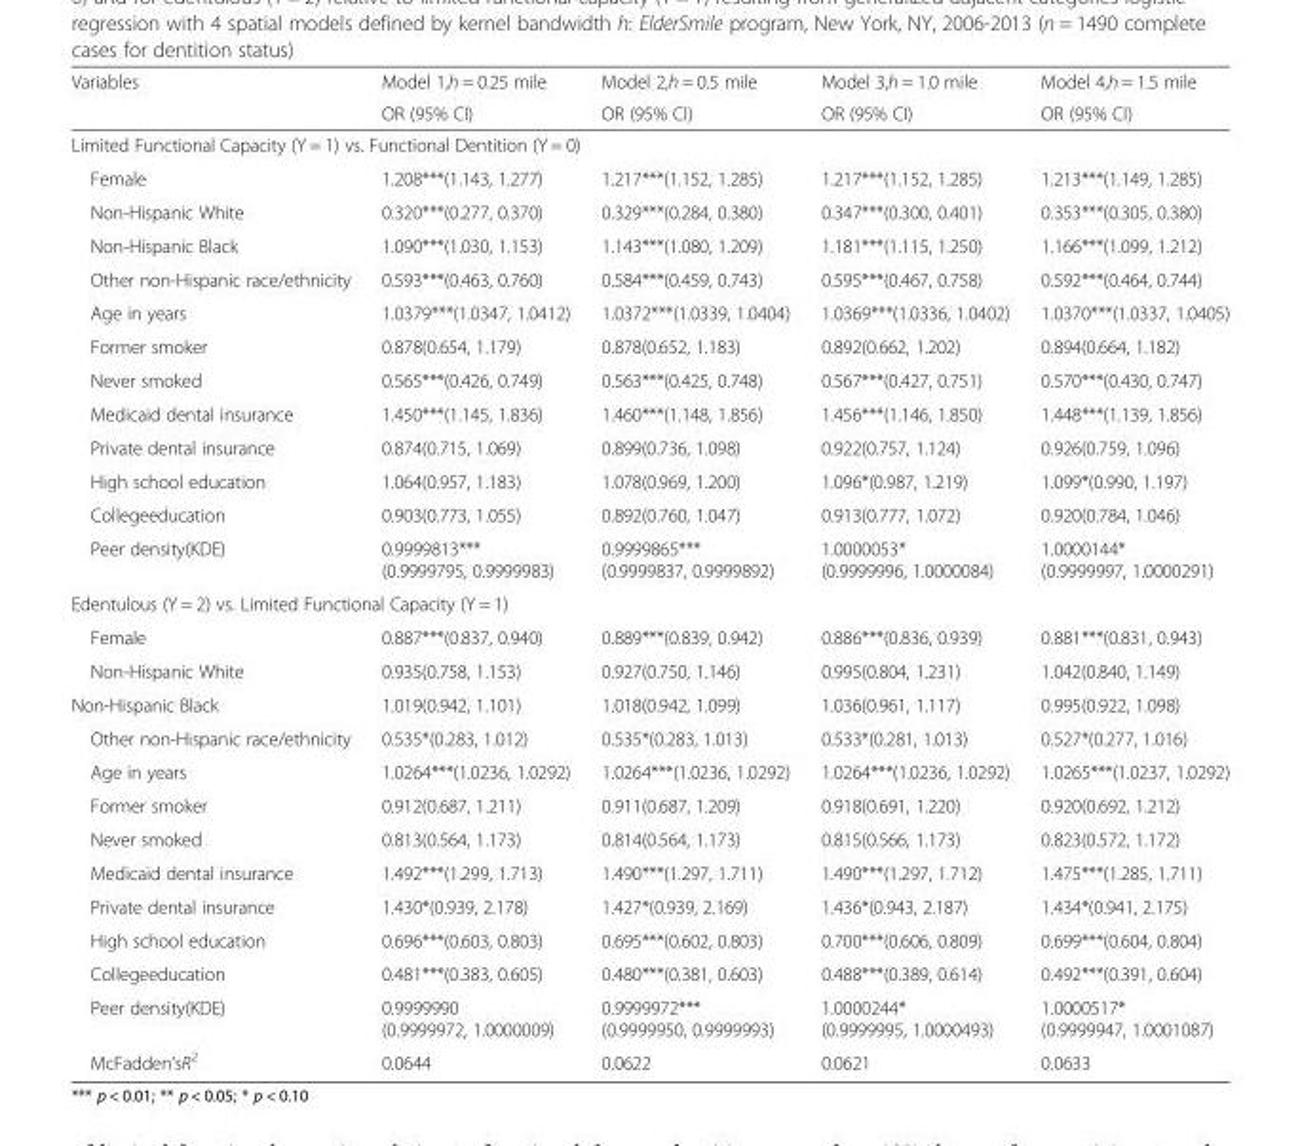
<table><thead><tr><td rowspan="2">Variables</td><td rowspan="2">Model 1,h = 0.25 mile OR (95% CI)</td><td rowspan="2">Model 2,h = 0.5 mile OR (95% CI)</td><td rowspan="2">Model 3,h = 1.0 mile OR (95% CI)</td><td rowspan="2">Model 4,h = 1.5 mile OR (95% CI)</td></tr><tr></tr></thead><tbody><tr><td colspan="5">Limited Functional Capacity (Y = 1) vs. Functional Dentition (Y = 0)</td></tr><tr><td>Female</td><td>1.208***(1.143, 1.277)</td><td>1.217***(1.152, 1.285)</td><td>1.217***(1.152, 1.285)</td><td>1.213***(1.149, 1.285)</td></tr><tr><td>Non-Hispanic White</td><td>0.320***(0.277, 0.370)</td><td>0.329***(0.284, 0.380)</td><td>0.347***(0.300, 0.401)</td><td>0.353***(0.305, 0.380)</td></tr><tr><td>Non-Hispanic Black</td><td>1.090***(1.030, 1.153)</td><td>1.143***(1.080, 1.209)</td><td>1.181***(1.115, 1.250)</td><td>1.166***(1.099, 1.212)</td></tr><tr><td>Other non-Hispanic race/ethnicity</td><td>0.593***(0.463, 0.760)</td><td>0.584***(0.459, 0.743)</td><td>0.595***(0.467, 0.758)</td><td>0.592***(0.464, 0.744)</td></tr><tr><td>Age in years</td><td>1.0379***(1.0347, 1.0412)</td><td>1.0372***(1.0339, 1.0404)</td><td>1.0369***(1.0336, 1.0402)</td><td>1.0370***(1.0337, 1.0405)</td></tr><tr><td>Former smoker</td><td>0.878(0.654, 1.179)</td><td>0.878(0.652, 1.183)</td><td>0.892(0.662, 1.202)</td><td>0.894(0.664, 1.182)</td></tr><tr><td>Never smoked</td><td>0.565***(0.426, 0.749)</td><td>0.563***(0.425, 0.748)</td><td>0.567***(0.427, 0.751)</td><td>0.570***(0.430, 0.747)</td></tr><tr><td>Medicaid dental insurance</td><td>1.450***(1.145, 1.836)</td><td>1.460***(1.148, 1.856)</td><td>1.456***(1.146, 1.850)</td><td>1.448***(1.139, 1.856)</td></tr><tr><td>Private dental insurance</td><td>0.874(0.715, 1.069)</td><td>0.899(0.736, 1.098)</td><td>0.922(0.757, 1.124)</td><td>0.926(0.759, 1.096)</td></tr><tr><td>High school education</td><td>1.064(0.957, 1.183)</td><td>1.078(0.969, 1.200)</td><td>1.096*(0.987, 1.219)</td><td>1.099*(0.990, 1.197)</td></tr><tr><td>Collegeeducation</td><td>0.903(0.773, 1.055)</td><td>0.892(0.760, 1.047)</td><td>0.913(0.777, 1.072)</td><td>0.920(0.784, 1.046)</td></tr><tr><td>Peer density(KDE)</td><td>0.9999813*** (0.9999795, 0.9999983)</td><td>0.9999865*** (0.9999837, 0.9999892)</td><td>1.0000053* (0.9999996, 1.0000084)</td><td>1.0000144* (0.9999997, 1.0000291)</td></tr><tr><td colspan="5">Edentulous (Y = 2) vs. Limited Functional Capacity (Y = 1)</td></tr><tr><td>Female</td><td>0.887***(0.837, 0.940)</td><td>0.889***(0.839, 0.942)</td><td>0.886***(0.836, 0.939)</td><td>0.881***(0.831, 0.943)</td></tr><tr><td>Non-Hispanic White</td><td>0.935(0.758, 1.153)</td><td>0.927(0.750, 1.146)</td><td>0.995(0.804, 1.231)</td><td>1.042(0.840, 1.149)</td></tr><tr><td>Non-Hispanic Black</td><td>1.019(0.942, 1.101)</td><td>1.018(0.942, 1.099)</td><td>1.036(0.961, 1.117)</td><td>0.995(0.922, 1.098)</td></tr><tr><td>Other non-Hispanic race/ethnicity</td><td>0.535*(0.283, 1.012)</td><td>0.535*(0.283, 1.013)</td><td>0.533*(0.281, 1.013)</td><td>0.527*(0.277, 1.016)</td></tr><tr><td>Age in years</td><td>1.0264***(1.0236, 1.0292)</td><td>1.0264***(1.0236, 1.0292)</td><td>1.0264***(1.0236, 1.0292)</td><td>1.0265***(1.0237, 1.0292)</td></tr><tr><td>Former smoker</td><td>0.912(0.687, 1.211)</td><td>0.911(0.687, 1.209)</td><td>0.918(0.691, 1.220)</td><td>0.920(0.692, 1.212)</td></tr><tr><td>Never smoked</td><td>0.813(0.564, 1.173)</td><td>0.814(0.564, 1.173)</td><td>0.815(0.566, 1.173)</td><td>0.823(0.572, 1.172)</td></tr><tr><td>Medicaid dental insurance</td><td>1.492***(1.299, 1.713)</td><td>1.490***(1.297, 1.711)</td><td>1.490***(1.297, 1.712)</td><td>1.475***(1.285, 1.711)</td></tr><tr><td>Private dental insurance</td><td>1.430*(0.939, 2.178)</td><td>1.427*(0.939, 2.169)</td><td>1.436*(0.943, 2.187)</td><td>1.434*(0.941, 2.175)</td></tr><tr><td>High school education</td><td>0.696***(0.603, 0.803)</td><td>0.695***(0.602, 0.803)</td><td>0.700***(0.606, 0.809)</td><td>0.699***(0.604, 0.804)</td></tr><tr><td>Collegeeducation</td><td>0.481***(0.383, 0.605)</td><td>0.480***(0.381, 0.603)</td><td>0.488***(0.389, 0.614)</td><td>0.492***(0.391, 0.604)</td></tr><tr><td>Peer density(KDE)</td><td>0.9999990 (0.9999972, 1.0000009)</td><td>0.9999972*** (0.9999950, 0.9999993)</td><td>1.0000244* (0.9999995, 1.0000493)</td><td>1.0000517* (0.9999947, 1.0001087)</td></tr><tr><td>McFadden’sR<sup>2</sup></td><td>0.0644</td><td>0.0622</td><td>0.0621</td><td>0.0633</td></tr></tbody></table>